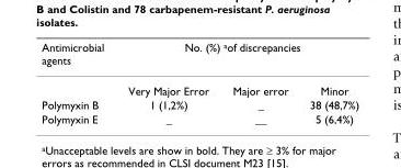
<table><thead><tr><td rowspan="2">Antimicrobial agents</td><td colspan="3">No. (%) <sup>a</sup>of discrepancies</td></tr><tr><td>Very Major Error</td><td>Major error</td><td>Minor</td></tr></thead><tbody><tr><td>Polymyxin B</td><td>1 (1,2%)</td><td>_</td><td>38 (48,7%)</td></tr><tr><td>Polymyxin E</td><td>_</td><td>__</td><td>5 (6,4%)</td></tr></tbody></table>